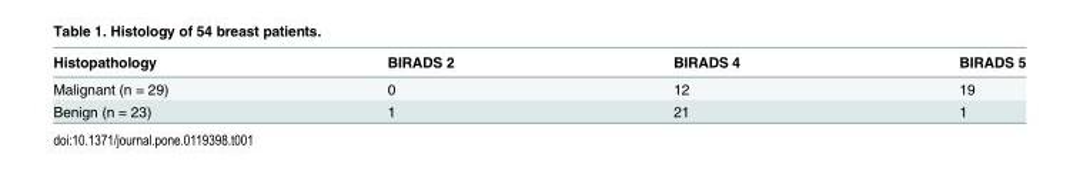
<table><thead><tr><td>Histopathology</td><td>BIRADS 2</td><td>BIRADS 4</td><td>BIRADS 5</td></tr></thead><tbody><tr><td>Malignant (n = 29)</td><td>0</td><td>12</td><td>19</td></tr><tr><td>Benign (n = 23)</td><td>1</td><td>21</td><td>1</td></tr></tbody></table>